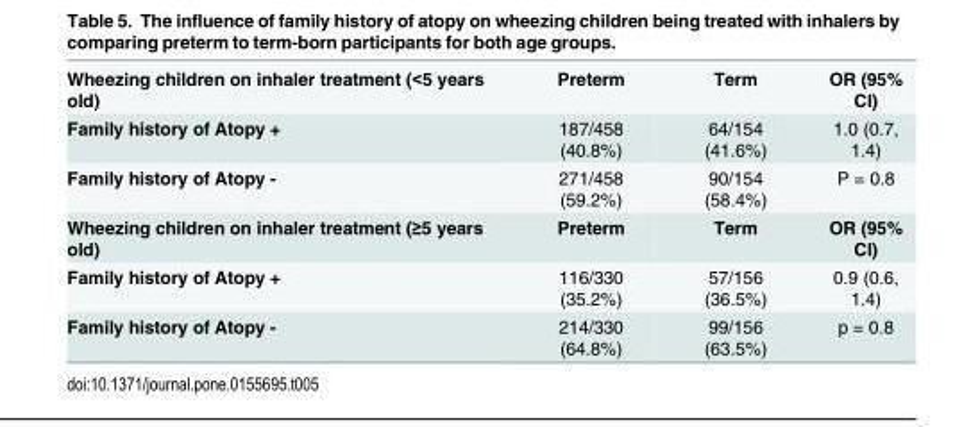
<table><tbody><tr><td>Wheezing children on inhaler treatment (&lt;5 years old)</td><td>Preterm</td><td>Term</td><td>OR (95% CI)</td></tr><tr><td>Family history of Atopy +</td><td>187/458 (40.8%)</td><td>64/154 (41.6%)</td><td>1.0 (0.7, 1.4)</td></tr><tr><td>Family history of Atopy -</td><td>271/458 (59.2%)</td><td>90/154 (58.4%)</td><td>P = 0.8</td></tr><tr><td>Wheezing children on inhaler treatment (≥5 years old)</td><td>Preterm</td><td>Term</td><td>OR (95% CI)</td></tr><tr><td>Family history of Atopy +</td><td>116/330 (35.2%)</td><td>57/156 (36.5%)</td><td>0.9 (0.6, 1.4)</td></tr><tr><td>Family history of Atopy -</td><td>214/330 (64.8%)</td><td>99/156 (63.5%)</td><td>p = 0.8</td></tr></tbody></table>